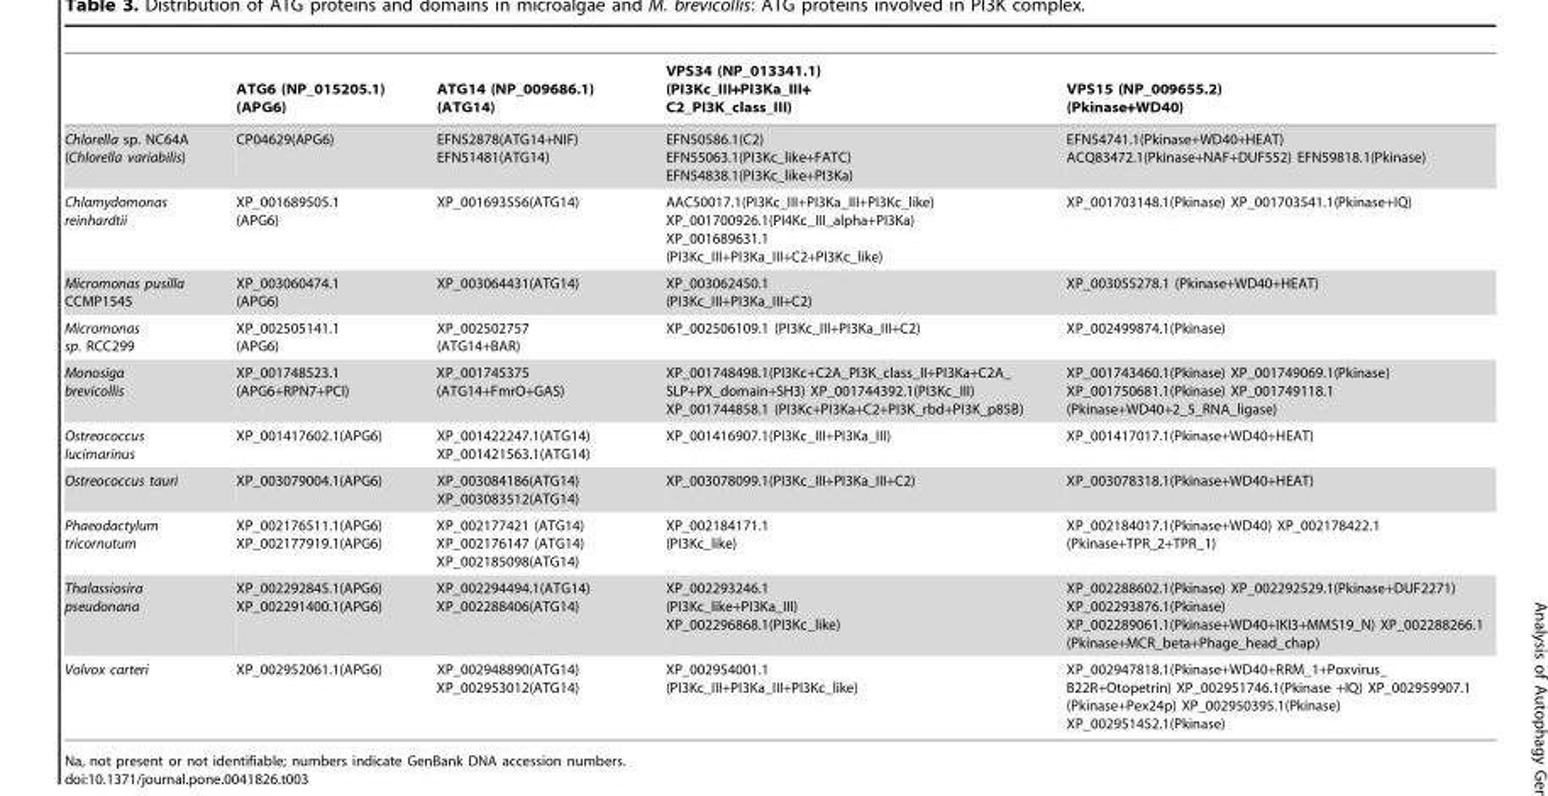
<table><thead><tr><td></td><td>ATG6 (NP_015205.1) (APG6)</td><td>ATG14 (NP_009686.1) (ATG14)</td><td>VPS34 (NP_013341.1) (PI3Kc_III+PI3Ka_III+ C2_PI3K_class_III)</td><td>VPS15 (NP_009655.2) (Pkinase+WD40)</td></tr></thead><tbody><tr><td>Chlorella sp. NC64A (Chlorella variabilis)</td><td>CP04629(APG6)</td><td>EFN52878(ATG14+NIF) EFN51481(ATG14)</td><td>EFN50586.1(C2) EFN55063.1(PI3Kc_like+FATC) EFN54838.1(PI3Kc_like+PI3Ka)</td><td>EFN54741.1(Pkinase+WD40+HEAT) ACQ83472.1(Pkinase+NAF+DUF552) EFN59818.1(Pkinase)</td></tr><tr><td>Chlamydomonas reinhardtii</td><td>XP_001689505.1 (APG6)</td><td>XP_001693556(ATG14)</td><td>AAC50017.1(PI3Kc_III+PI3Ka_III+PI3Kc_like) XP_001700926.1(PI4Kc_III_alpha+PI3Ka) XP_001689631.1 (PI3Kc_III+PI3Ka_III+C2+PI3Kc_like)</td><td>XP_001703148.1(Pkinase) XP_001703541.1(Pkinase+IQ)</td></tr><tr><td>Micromonas pusilla CCMP1545</td><td>XP_003060474.1 (APG6)</td><td>XP_003064431(ATG14)</td><td>XP_003062450.1 (PI3Kc_III+PI3Ka_III+C2)</td><td>XP_003055278.1 (Pkinase+WD40+HEAT)</td></tr><tr><td>Micromonas sp. RCC299</td><td>XP_002505141.1 (APG6)</td><td>XP_002502757 (ATG14+BAR)</td><td>XP_002506109.1 (PI3Kc_III+PI3Ka_III+C2)</td><td>XP_002499874.1(Pkinase)</td></tr><tr><td>Monosiga brevicollis</td><td>XP_001748523.1 (APG6+RPN7+PCI)</td><td>XP_001745375 (ATG14+FmrO+GAS)</td><td>XP_001748498.1(PI3Kc+C2A_PI3K_class_II+PI3Ka+C2A_ SLP+PX_domain+SH3) XP_001744392.1(PI3Kc_III) XP_001744858.1 (PI3Kc+PI3Ka+C2+PI3K_rbd+PI3K_p85B)</td><td>XP_001743460.1(Pkinase) XP_001749069.1(Pkinase) XP_001750681.1(Pkinase) XP_001749118.1 (Pkinase+WD40+2_5_RNA_ligase)</td></tr><tr><td>Ostreococcus lucimarinus</td><td>XP_001417602.1(APG6)</td><td>XP_001422247.1(ATG14) XP_001421563.1(ATG14)</td><td>XP_001416907.1(PI3Kc_III+PI3Ka_III)</td><td>XP_001417017.1(Pkinase+WD40+HEAT)</td></tr><tr><td>Ostreococcus tauri</td><td>XP_003079004.1(APG6)</td><td>XP_003084186(ATG14) XP_003083512(ATG14)</td><td>XP_003078099.1(PI3Kc_III+PI3Ka_III+C2)</td><td>XP_003078318.1(Pkinase+WD40+HEAT)</td></tr><tr><td>Phaeodactylum tricornutum</td><td>XP_002176511.1(APG6) XP_002177919.1(APG6)</td><td>XP_002177421 (ATG14) XP_002176147 (ATG14) XP_002185098(ATG14)</td><td>XP_002184171.1 (PI3Kc_like)</td><td>XP_002184017.1(Pkinase+WD40) XP_002178422.1 (Pkinase+TPR_2+TPR_1)</td></tr><tr><td>Thalassiosira pseudonana</td><td>XP_002292845.1(APG6) XP_002291400.1(APG6)</td><td>XP_002294494.1(ATG14) XP_002288406(ATG14)</td><td>XP_002293246.1 (PI3Kc_like+PI3Ka_III) XP_002296868.1(PI3Kc_like)</td><td>XP_002288602.1(Pkinase) XP_002292529.1(Pkinase+DUF2271) XP_002293876.1(Pkinase) XP_002289061.1(Pkinase+WD40+IKI3+MMS19_N) XP_002288266.1 (Pkinase+MCR_beta+Phage_head_chap)</td></tr><tr><td>Volvox carteri</td><td>XP_002952061.1(APG6)</td><td>XP_002948890(ATG14) XP_002953012(ATG14)</td><td>XP_002954001.1 (PI3Kc_III+PI3Ka_III+PI3Kc_like)</td><td>XP_002947818.1(Pkinase+WD40+RRM_1+Poxvirus_ B22R+Otopetrin) XP_002951746.1(Pkinase +IQ) XP_002959907.1 (Pkinase+Pex24p) XP_002950395.1(Pkinase) XP_002951452.1(Pkinase)</td></tr></tbody></table>